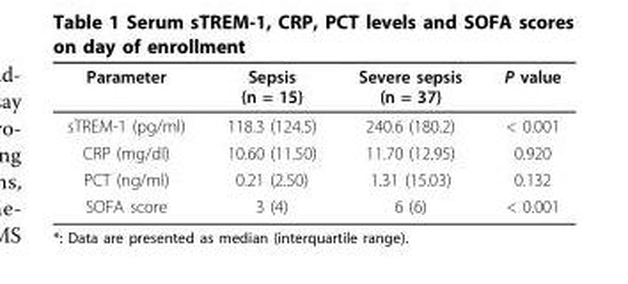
<table><thead><tr><td>Parameter</td><td>Sepsis (n = 15)</td><td>Severe sepsis (n = 37)</td><td>P value</td></tr></thead><tbody><tr><td>sTREM-1 (pg/ml)</td><td>118.3 (124.5)</td><td>240.6 (180.2)</td><td>&lt; 0.001</td></tr><tr><td>CRP (mg/dl)</td><td>10.60 (11.50)</td><td>11.70 (12.95)</td><td>0.920</td></tr><tr><td>PCT (ng/ml)</td><td>0.21 (2.50)</td><td>1.31 (15.03)</td><td>0.132</td></tr><tr><td>SOFA score</td><td>3 (4)</td><td>6 (6)</td><td>&lt; 0.001</td></tr></tbody></table>